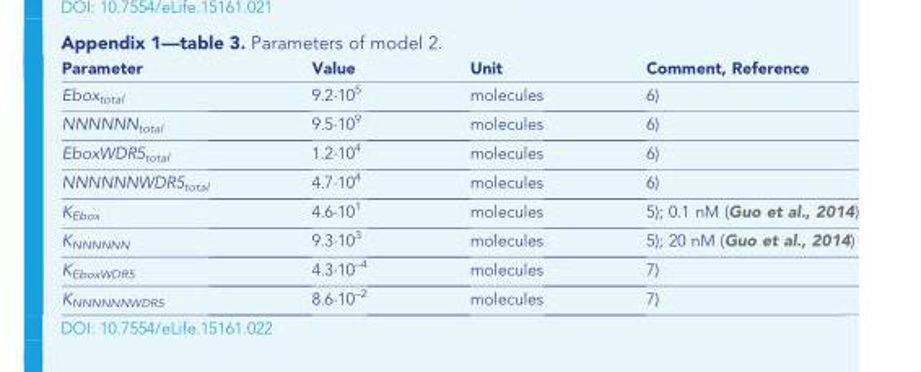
<table><thead><tr><td>Parameter</td><td>Value</td><td>Unit</td><td>Comment, Reference</td></tr></thead><tbody><tr><td>Ebox<sub>total</sub></td><td>9.2·10<sup>5</sup></td><td>molecules</td><td>6)</td></tr><tr><td>NNNNNN<sub>total</sub></td><td>9.5·10<sup>9</sup></td><td>molecules</td><td>6)</td></tr><tr><td>EboxWDR5<sub>total</sub></td><td>1.2·10<sup>4</sup></td><td>molecules</td><td>6)</td></tr><tr><td>NNNNNNWDR5<sub>total</sub></td><td>4.7·10<sup>4</sup></td><td>molecules</td><td>6)</td></tr><tr><td>K<sub>Ebox</sub></td><td>4.6·10<sup>1</sup></td><td>molecules</td><td>5); 0.1 nM (Guo et al., 2014)</td></tr><tr><td>K<sub>NNNNNN</sub></td><td>9.3·10<sup>3</sup></td><td>molecules</td><td>5); 20 nM (Guo et al., 2014)</td></tr><tr><td>K<sub>EboxWDR5</sub></td><td>4.3·10<sup>–4</sup></td><td>molecules</td><td>7)</td></tr><tr><td>K<sub>NNNNNNWDR5</sub></td><td>8.6·10<sup>–2</sup></td><td>molecules</td><td>7)</td></tr></tbody></table>